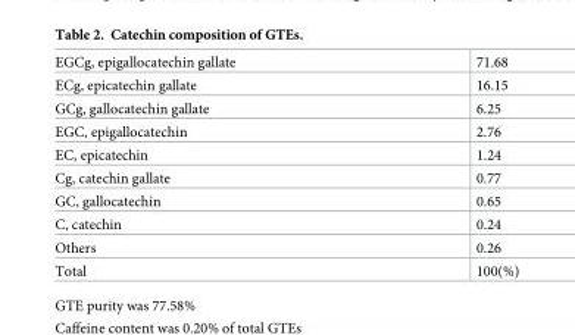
<table><tbody><tr><td>EGCg, epigallocatechin gallate</td><td>71.68</td></tr><tr><td>ECg, epicatechin gallate</td><td>16.15</td></tr><tr><td>GCg, gallocatechin gallate</td><td>6.25</td></tr><tr><td>EGC, epigallocatechin</td><td>2.76</td></tr><tr><td>EC, epicatechin</td><td>1.24</td></tr><tr><td>Cg, catechin gallate</td><td>0.77</td></tr><tr><td>GC, gallocatechin</td><td>0.65</td></tr><tr><td>C, catechin</td><td>0.24</td></tr><tr><td>Others</td><td>0.26</td></tr><tr><td>Total</td><td>100(%)</td></tr></tbody></table>